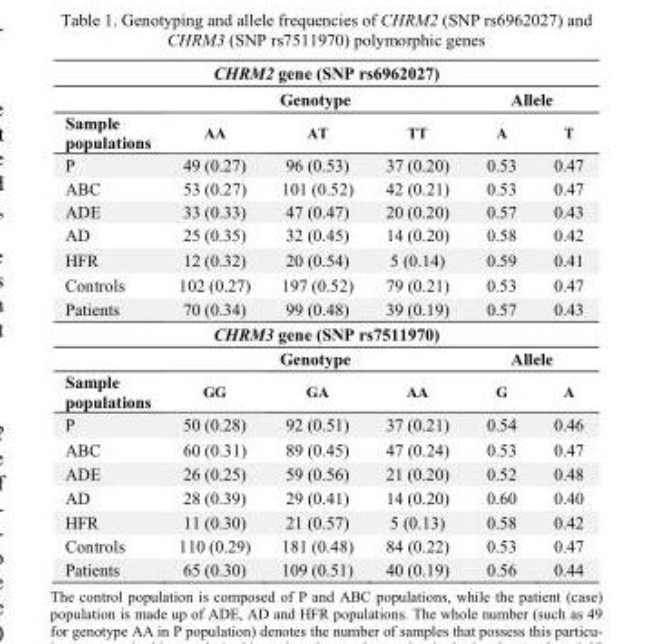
<table><tbody><tr><td colspan="6">CHRM2 gene (SNP rs6962027)</td></tr><tr><td></td><td colspan="3">Genotype</td><td colspan="2">Allele</td></tr><tr><td>Sample populations</td><td>AA</td><td>AT</td><td>TT</td><td>A</td><td>T</td></tr><tr><td>P</td><td>49 (0.27)</td><td>96 (0.53)</td><td>37 (0.20)</td><td>0.53</td><td>0.47</td></tr><tr><td>ABC</td><td>53 (0.27)</td><td>101 (0.52)</td><td>42 (0.21)</td><td>0.53</td><td>0.47</td></tr><tr><td>ADE</td><td>33 (0.33)</td><td>47 (0.47)</td><td>20 (0.20)</td><td>0.57</td><td>0.43</td></tr><tr><td>AD</td><td>25 (0.35)</td><td>32 (0.45)</td><td>14 (0.20)</td><td>0.58</td><td>0.42</td></tr><tr><td>HFR</td><td>12 (0.32)</td><td>20 (0.54)</td><td>5 (0.14)</td><td>0.59</td><td>0.41</td></tr><tr><td>Controls</td><td>102 (0.27)</td><td>197 (0.52)</td><td>79 (0.21)</td><td>0.53</td><td>0.47</td></tr><tr><td>Patients</td><td>70 (0.34)</td><td>99 (0.48)</td><td>39 (0.19)</td><td>0.57</td><td>0.43</td></tr><tr><td colspan="6">CHRM3 gene (SNP rs7511970)</td></tr><tr><td></td><td colspan="3">Genotype</td><td colspan="2">Allele</td></tr><tr><td>Sample populations</td><td>GG</td><td>GA</td><td>AA</td><td>G</td><td>A</td></tr><tr><td>P</td><td>50 (0.28)</td><td>92 (0.51)</td><td>37 (0.21)</td><td>0.54</td><td>0.46</td></tr><tr><td>ABC</td><td>60 (0.31)</td><td>89 (0.45)</td><td>47 (0.24)</td><td>0.53</td><td>0.47</td></tr><tr><td>ADE</td><td>26 (0.25)</td><td>59 (0.56)</td><td>21 (0.20)</td><td>0.52</td><td>0.48</td></tr><tr><td>AD</td><td>28 (0.39)</td><td>29 (0.41)</td><td>14 (0.20)</td><td>0.60</td><td>0.40</td></tr><tr><td>HFR</td><td>11 (0.30)</td><td>21 (0.57)</td><td>5 (0.13)</td><td>0.58</td><td>0.42</td></tr><tr><td>Controls</td><td>110 (0.29)</td><td>181 (0.48)</td><td>84 (0.22)</td><td>0.53</td><td>0.47</td></tr><tr><td>Patients</td><td>65 (0.30)</td><td>109 (0.51)</td><td>40 (0.19)</td><td>0.56</td><td>0.44</td></tr></tbody></table>